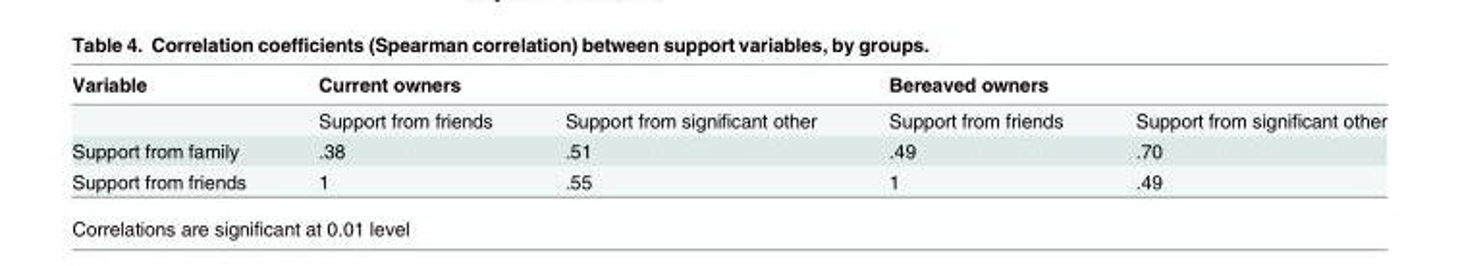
<table><thead><tr><td>Variable</td><td>Current owners</td><td></td><td>Bereaved owners</td><td></td></tr></thead><tbody><tr><td></td><td>Support from friends</td><td>Support from significant other</td><td>Support from friends</td><td>Support from significant other</td></tr><tr><td>Support from family</td><td>.38</td><td>.51</td><td>.49</td><td>.70</td></tr><tr><td>Support from friends</td><td>1</td><td>.55</td><td>1</td><td>.49</td></tr></tbody></table>